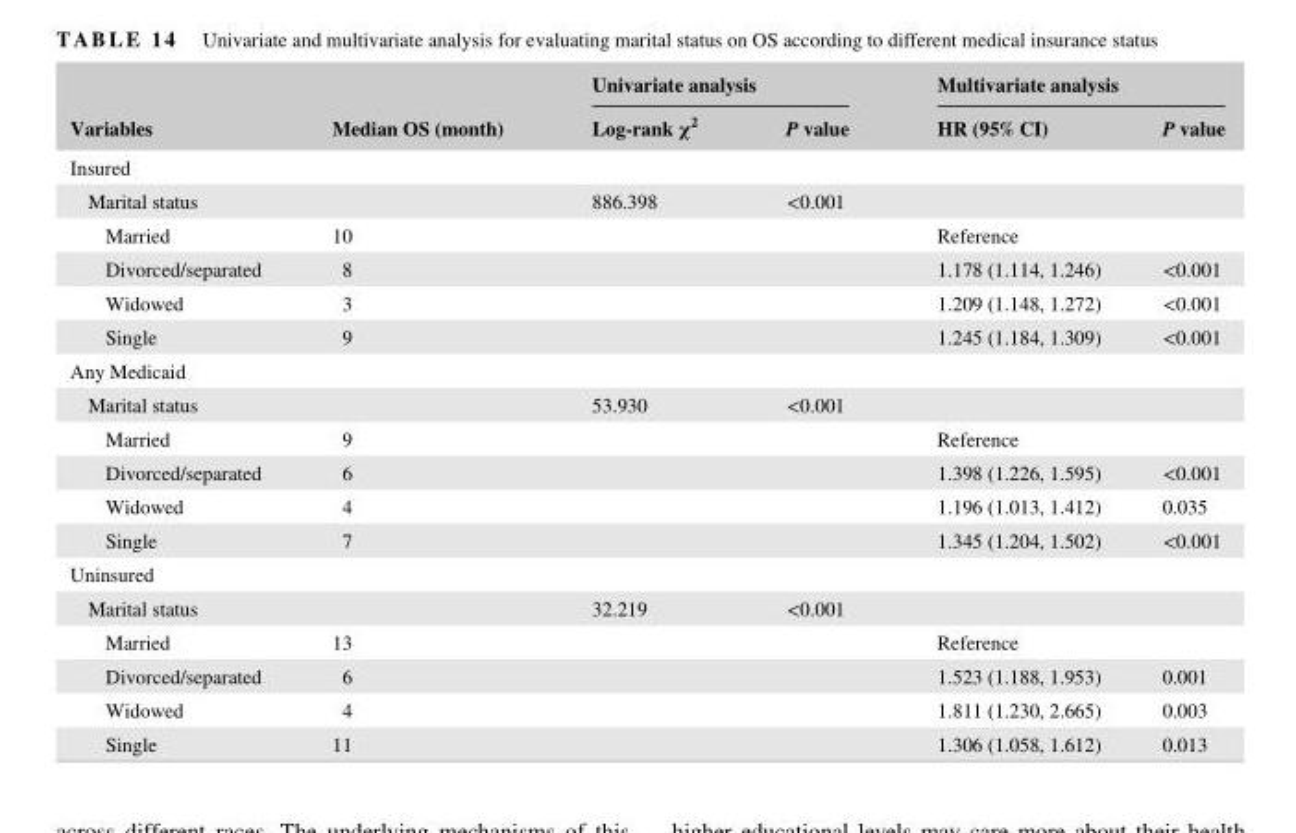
<table><thead><tr><td rowspan="2">Variables</td><td rowspan="2">Median OS (month)</td><td colspan="2">Univariate analysis</td><td colspan="2">Multivariate analysis</td></tr><tr><td>Log- rank χ<sup>2</sup></td><td>P value</td><td>HR (95% CI)</td><td>P value</td></tr></thead><tbody><tr><td colspan="6">Insured</td></tr><tr><td>Marital status</td><td></td><td>886.398</td><td>&lt;0.001</td><td></td><td></td></tr><tr><td>Married</td><td>10</td><td></td><td></td><td>Reference</td><td></td></tr><tr><td>Divorced/separated</td><td>8</td><td></td><td></td><td>1.178 (1.114, 1.246)</td><td>&lt;0.001</td></tr><tr><td>Widowed</td><td>3</td><td></td><td></td><td>1.209 (1.148, 1.272)</td><td>&lt;0.001</td></tr><tr><td>Single</td><td>9</td><td></td><td></td><td>1.245 (1.184, 1.309)</td><td>&lt;0.001</td></tr><tr><td colspan="6">Any Medicaid</td></tr><tr><td>Marital status</td><td></td><td>53.930</td><td>&lt;0.001</td><td></td><td></td></tr><tr><td>Married</td><td>9</td><td></td><td></td><td>Reference</td><td></td></tr><tr><td>Divorced/separated</td><td>6</td><td></td><td></td><td>1.398 (1.226, 1.595)</td><td>&lt;0.001</td></tr><tr><td>Widowed</td><td>4</td><td></td><td></td><td>1.196 (1.013, 1.412)</td><td>0.035</td></tr><tr><td>Single</td><td>7</td><td></td><td></td><td>1.345 (1.204, 1.502)</td><td>&lt;0.001</td></tr><tr><td colspan="6">Uninsured</td></tr><tr><td>Marital status</td><td></td><td>32.219</td><td>&lt;0.001</td><td></td><td></td></tr><tr><td>Married</td><td>13</td><td></td><td></td><td>Reference</td><td></td></tr><tr><td>Divorced/separated</td><td>6</td><td></td><td></td><td>1.523 (1.188, 1.953)</td><td>0.001</td></tr><tr><td>Widowed</td><td>4</td><td></td><td></td><td>1.811 (1.230, 2.665)</td><td>0.003</td></tr><tr><td>Single</td><td>11</td><td></td><td></td><td>1.306 (1.058, 1.612)</td><td>0.013</td></tr></tbody></table>